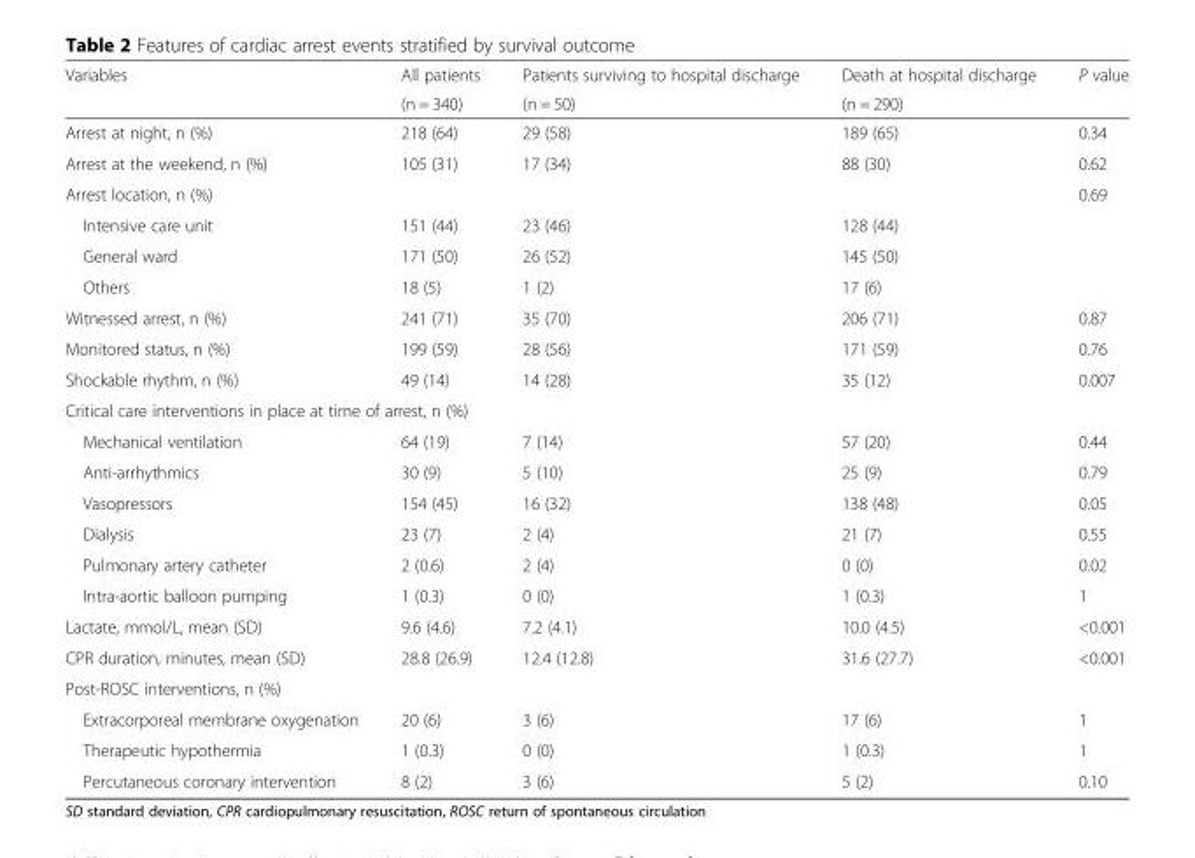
<table><thead><tr><td rowspan="2">Variables</td><td rowspan="2">All patients (n = 340)</td><td rowspan="2">Patients surviving to hospital discharge (n = 50)</td><td rowspan="2">Death at hospital discharge (n = 290)</td><td rowspan="2">P value</td></tr><tr></tr></thead><tbody><tr><td>Arrest at night, n (%)</td><td>218 (64)</td><td>29 (58)</td><td>189 (65)</td><td>0.34</td></tr><tr><td>Arrest at the weekend, n (%)</td><td>105 (31)</td><td>17 (34)</td><td>88 (30)</td><td>0.62</td></tr><tr><td colspan="4">Arrest location, n (%)</td><td rowspan="3">0.69</td></tr><tr><td>Intensive care unit</td><td>151 (44)</td><td>23 (46)</td><td>128 (44)</td></tr><tr><td>General ward</td><td>171 (50)</td><td>26 (52)</td><td>145 (50)</td></tr><tr><td>Others</td><td>18 (5)</td><td>1 (2)</td><td>17 (6)</td><td></td></tr><tr><td>Witnessed arrest, n (%)</td><td>241 (71)</td><td>35 (70)</td><td>206 (71)</td><td>0.87</td></tr><tr><td>Monitored status, n (%)</td><td>199 (59)</td><td>28 (56)</td><td>171 (59)</td><td>0.76</td></tr><tr><td>Shockable rhythm, n (%)</td><td>49 (14)</td><td>14 (28)</td><td>35 (12)</td><td>0.007</td></tr><tr><td colspan="5">Critical care interventions in place at time of arrest, n (%)</td></tr><tr><td>Mechanical ventilation</td><td>64 (19)</td><td>7 (14)</td><td>57 (20)</td><td>0.44</td></tr><tr><td>Anti-arrhythmics</td><td>30 (9)</td><td>5 (10)</td><td>25 (9)</td><td>0.79</td></tr><tr><td>Vasopressors</td><td>154 (45)</td><td>16 (32)</td><td>138 (48)</td><td>0.05</td></tr><tr><td>Dialysis</td><td>23 (7)</td><td>2 (4)</td><td>21 (7)</td><td>0.55</td></tr><tr><td>Pulmonary artery catheter</td><td>2 (0.6)</td><td>2 (4)</td><td>0 (0)</td><td>0.02</td></tr><tr><td>Intra-aortic balloon pumping</td><td>1 (0.3)</td><td>0 (0)</td><td>1 (0.3)</td><td>1</td></tr><tr><td>Lactate, mmol/L, mean (SD)</td><td>9.6 (4.6)</td><td>7.2 (4.1)</td><td>10.0 (4.5)</td><td>&lt;0.001</td></tr><tr><td>CPR duration, minutes, mean (SD)</td><td>28.8 (26.9)</td><td>12.4 (12.8)</td><td>31.6 (27.7)</td><td>&lt;0.001</td></tr><tr><td colspan="5">Post-ROSC interventions, n (%)</td></tr><tr><td>Extracorporeal membrane oxygenation</td><td>20 (6)</td><td>3 (6)</td><td>17 (6)</td><td>1</td></tr><tr><td>Therapeutic hypothermia</td><td>1 (0.3)</td><td>0 (0)</td><td>1 (0.3)</td><td>1</td></tr><tr><td>Percutaneous coronary intervention</td><td>8 (2)</td><td>3 (6)</td><td>5 (2)</td><td>0.10</td></tr></tbody></table>